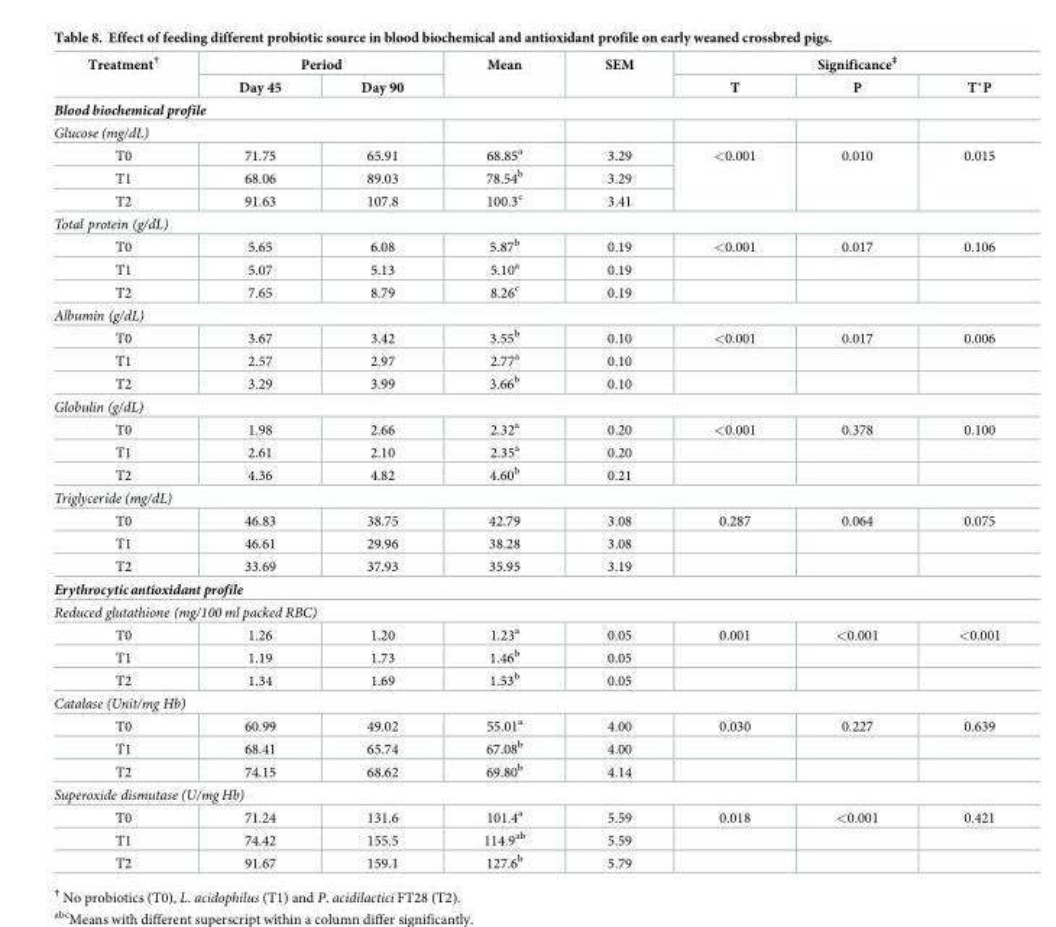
<table><thead><tr><td rowspan="2">Treatment<sup>†</sup></td><td colspan="2">Period</td><td rowspan="2">Mean</td><td rowspan="2">SEM</td><td colspan="3">Significance<sup>‡</sup></td></tr><tr><td>Day 45</td><td>Day 90</td><td>T</td><td>P</td><td>T*P</td></tr></thead><tbody><tr><td colspan="8">Blood biochemical profile</td></tr><tr><td colspan="8">Glucose (mg/dL)</td></tr><tr><td>T0</td><td>71.75</td><td>65.91</td><td>68.85<sup>a</sup></td><td>3.29</td><td rowspan="3">&lt;0.001</td><td rowspan="3">0.010</td><td rowspan="3">0.015</td></tr><tr><td>T1</td><td>68.06</td><td>89.03</td><td>78.54<sup>b</sup></td><td>3.29</td></tr><tr><td>T2</td><td>91.63</td><td>107.8</td><td>100.3<sup>c</sup></td><td>3.41</td></tr><tr><td colspan="8">Total protein (g/dL)</td></tr><tr><td>T0</td><td>5.65</td><td>6.08</td><td>5.87<sup>b</sup></td><td>0.19</td><td>&lt;0.001</td><td>0.017</td><td>0.106</td></tr><tr><td>T1</td><td>5.07</td><td>5.13</td><td>5.10<sup>a</sup></td><td>0.19</td><td></td><td></td><td></td></tr><tr><td>T2</td><td>7.65</td><td>8.79</td><td>8.26<sup>c</sup></td><td>0.19</td><td></td><td></td><td></td></tr><tr><td colspan="8">Albumin (g/dL)</td></tr><tr><td>T0</td><td>3.67</td><td>3.42</td><td>3.55<sup>b</sup></td><td>0.10</td><td>&lt;0.001</td><td>0.017</td><td>0.006</td></tr><tr><td>T1</td><td>2.57</td><td>2.97</td><td>2.77<sup>a</sup></td><td>0.10</td><td></td><td></td><td></td></tr><tr><td>T2</td><td>3.29</td><td>3.99</td><td>3.66<sup>b</sup></td><td>0.10</td><td></td><td></td><td></td></tr><tr><td colspan="8">Globulin (g/dL)</td></tr><tr><td>T0</td><td>1.98</td><td>2.66</td><td>2.32<sup>a</sup></td><td>0.20</td><td>&lt;0.001</td><td>0.378</td><td>0.100</td></tr><tr><td>T1</td><td>2.61</td><td>2.10</td><td>2.35<sup>a</sup></td><td>0.20</td><td></td><td></td><td></td></tr><tr><td>T2</td><td>4.36</td><td>4.82</td><td>4.60<sup>b</sup></td><td>0.21</td><td></td><td></td><td></td></tr><tr><td colspan="8">Triglyceride (mg/dL)</td></tr><tr><td>T0</td><td>46.83</td><td>38.75</td><td>42.79</td><td>3.08</td><td>0.287</td><td>0.064</td><td>0.075</td></tr><tr><td>T1</td><td>46.61</td><td>29.96</td><td>38.28</td><td>3.08</td><td></td><td></td><td></td></tr><tr><td>T2</td><td>33.69</td><td>37.93</td><td>35.95</td><td>3.19</td><td></td><td></td><td></td></tr><tr><td colspan="8">Erythrocyticantioxidant profile</td></tr><tr><td colspan="8">Reduced glutathione (mg/100 ml packed RBC)</td></tr><tr><td>T0</td><td>1.26</td><td>1.20</td><td>1.23<sup>a</sup></td><td>0.05</td><td>0.001</td><td>&lt;0.001</td><td>&lt;0.001</td></tr><tr><td>T1</td><td>1.19</td><td>1.73</td><td>1.46<sup>b</sup></td><td>0.05</td><td></td><td></td><td></td></tr><tr><td>T2</td><td>1.34</td><td>1.69</td><td>1.53<sup>b</sup></td><td>0.05</td><td></td><td></td><td></td></tr><tr><td colspan="8">Catalase (Unit/mg Hb)</td></tr><tr><td>T0</td><td>60.99</td><td>49.02</td><td>55.01<sup>a</sup></td><td>4.00</td><td>0.030</td><td>0.227</td><td>0.639</td></tr><tr><td>T1</td><td>68.41</td><td>65.74</td><td>67.08<sup>b</sup></td><td>4.00</td><td></td><td></td><td></td></tr><tr><td>T2</td><td>74.15</td><td>68.62</td><td>69.80<sup>b</sup></td><td>4.14</td><td></td><td></td><td></td></tr><tr><td colspan="8">Superoxide dismutase (U/mg Hb)</td></tr><tr><td>T0</td><td>71.24</td><td>131.6</td><td>101.4<sup>a</sup></td><td>5.59</td><td>0.018</td><td>&lt;0.001</td><td>0.421</td></tr><tr><td>T1</td><td>74.42</td><td>155.5</td><td>114.9<sup>ab</sup></td><td>5.59</td><td></td><td></td><td></td></tr><tr><td>T2</td><td>91.67</td><td>159.1</td><td>127.6<sup>b</sup></td><td>5.79</td><td></td><td></td><td></td></tr></tbody></table>